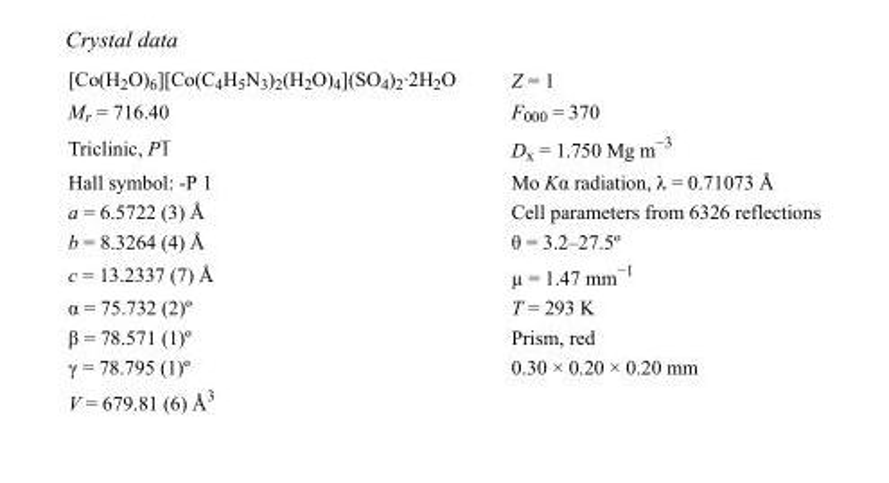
<table><tbody><tr><td>[Co(H<sub>2</sub>O)<sub>6</sub>][Co(C<sub>4</sub>H<sub>5</sub>N<sub>3</sub>)<sub>2</sub>(H<sub>2</sub>O)<sub>4</sub>](SO<sub>4</sub>)<sub>2</sub>·2H<sub>2</sub>O</td><td>Z = 1</td></tr><tr><td>M<sub>r</sub> = 716.40</td><td>F000 = 370</td></tr><tr><td>Triclinic, P1</td><td>D<sub>x</sub> = 1.750 Mg m<sup>−3</sup></td></tr><tr><td>Hall symbol: -P 1</td><td>Mo Kα radiation, λ = 0.71073 Å</td></tr><tr><td>a = 6.5722 (3) Å</td><td>Cell parameters from 6326 reflections</td></tr><tr><td>b = 8.3264 (4) Å</td><td>θ = 3.2–27.5º</td></tr><tr><td>c = 13.2337 (7) Å</td><td>µ = 1.47 mm<sup>−1</sup></td></tr><tr><td>α = 75.732 (2)º</td><td>T = 293 K</td></tr><tr><td>β = 78.571 (1)º</td><td>Prism, red</td></tr><tr><td>γ = 78.795 (1)º</td><td>0.30 × 0.20 × 0.20 mm</td></tr><tr><td>V = 679.81 (6) Å<sup>3</sup></td><td></td></tr></tbody></table>